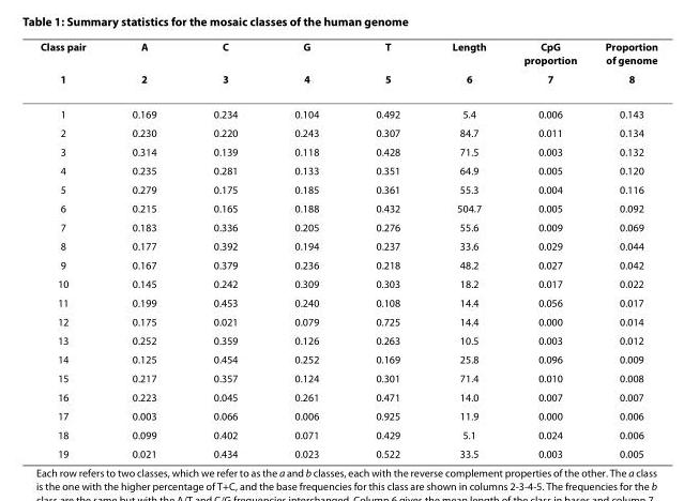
<table><thead><tr><td rowspan="2">Class pair 1</td><td rowspan="2">A 2</td><td rowspan="2">C 3</td><td rowspan="2">G 4</td><td rowspan="2">T 5</td><td rowspan="2">Length 6</td><td rowspan="2">CpG proportion 7</td><td rowspan="2">Proportion of genome 8</td></tr><tr></tr></thead><tbody><tr><td>1</td><td>0.169</td><td>0.234</td><td>0.104</td><td>0.492</td><td>5.4</td><td>0.006</td><td>0.143</td></tr><tr><td>2</td><td>0.230</td><td>0.220</td><td>0.243</td><td>0.307</td><td>84.7</td><td>0.011</td><td>0.134</td></tr><tr><td>3</td><td>0.314</td><td>0.139</td><td>0.118</td><td>0.428</td><td>71.5</td><td>0.003</td><td>0.132</td></tr><tr><td>4</td><td>0.235</td><td>0.281</td><td>0.133</td><td>0.351</td><td>64.9</td><td>0.005</td><td>0.120</td></tr><tr><td>5</td><td>0.279</td><td>0.175</td><td>0.185</td><td>0.361</td><td>55.3</td><td>0.004</td><td>0.116</td></tr><tr><td>6</td><td>0.215</td><td>0.165</td><td>0.188</td><td>0.432</td><td>504.7</td><td>0.005</td><td>0.092</td></tr><tr><td>7</td><td>0.183</td><td>0.336</td><td>0.205</td><td>0.276</td><td>55.6</td><td>0.009</td><td>0.069</td></tr><tr><td>8</td><td>0.177</td><td>0.392</td><td>0.194</td><td>0.237</td><td>33.6</td><td>0.029</td><td>0.044</td></tr><tr><td>9</td><td>0.167</td><td>0.379</td><td>0.236</td><td>0.218</td><td>48.2</td><td>0.027</td><td>0.042</td></tr><tr><td>10</td><td>0.145</td><td>0.242</td><td>0.309</td><td>0.303</td><td>18.2</td><td>0.017</td><td>0.022</td></tr><tr><td>11</td><td>0.199</td><td>0.453</td><td>0.240</td><td>0.108</td><td>14.4</td><td>0.056</td><td>0.017</td></tr><tr><td>12</td><td>0.175</td><td>0.021</td><td>0.079</td><td>0.725</td><td>14.4</td><td>0.000</td><td>0.014</td></tr><tr><td>13</td><td>0.252</td><td>0.359</td><td>0.126</td><td>0.263</td><td>10.5</td><td>0.003</td><td>0.012</td></tr><tr><td>14</td><td>0.125</td><td>0.454</td><td>0.252</td><td>0.169</td><td>25.8</td><td>0.096</td><td>0.009</td></tr><tr><td>15</td><td>0.217</td><td>0.357</td><td>0.124</td><td>0.301</td><td>71.4</td><td>0.010</td><td>0.008</td></tr><tr><td>16</td><td>0.223</td><td>0.045</td><td>0.261</td><td>0.471</td><td>14.0</td><td>0.007</td><td>0.007</td></tr><tr><td>17</td><td>0.003</td><td>0.066</td><td>0.006</td><td>0.925</td><td>11.9</td><td>0.000</td><td>0.006</td></tr><tr><td>18</td><td>0.099</td><td>0.402</td><td>0.071</td><td>0.429</td><td>5.1</td><td>0.024</td><td>0.006</td></tr><tr><td>19</td><td>0.021</td><td>0.434</td><td>0.023</td><td>0.522</td><td>33.5</td><td>0.003</td><td>0.005</td></tr></tbody></table>